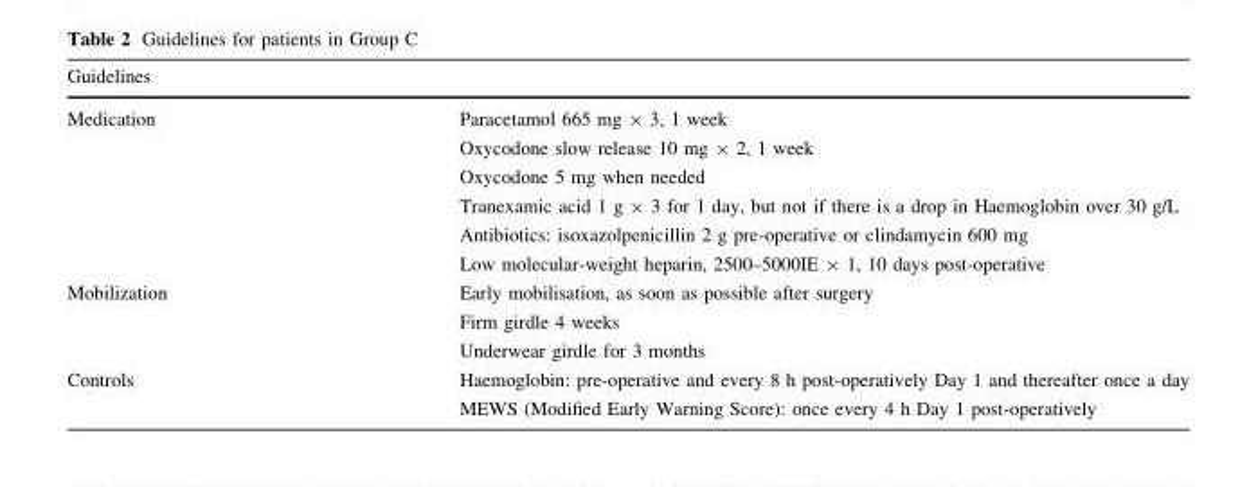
<table><thead><tr><td>Guidelines</td><td></td></tr></thead><tbody><tr><td rowspan="6">Medication</td><td>Paracetamol 665 mg × 3, 1 week</td></tr><tr><td>Oxycodone slow release 10 mg × 2, 1 week</td></tr><tr><td>Oxycodone 5 mg when needed</td></tr><tr><td>Tranexamic acid 1 g × 3 for 1 day, but not if there is a drop in Haemoglobin over 30 g/L</td></tr><tr><td>Antibiotics: isoxazolpenicillin 2 g pre-operative or clindamycin 600 mg</td></tr><tr><td>Low molecular-weight heparin, 2500–5000IE × 1, 10 days post-operative</td></tr><tr><td rowspan="3">Mobilization</td><td>Early mobilisation, as soon as possible after surgery</td></tr><tr><td>Firm girdle 4 weeks</td></tr><tr><td>Underwear girdle for 3 months</td></tr><tr><td rowspan="2">Controls</td><td>Haemoglobin: pre-operative and every 8 h post-operatively Day 1 and thereafter once a day</td></tr><tr><td>MEWS (Modified Early Warning Score): once every 4 h Day 1 post-operatively</td></tr></tbody></table>